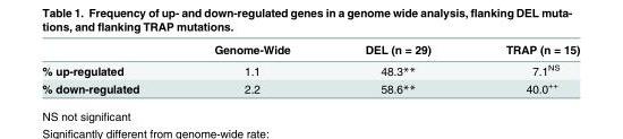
<table><thead><tr><td></td><td>Genome-Wide</td><td>DEL (n = 29)</td><td>TRAP (n = 15)</td></tr></thead><tbody><tr><td>% up-regulated</td><td>1.1</td><td>48.3**</td><td>7.1<sup>NS</sup></td></tr><tr><td>% down-regulated</td><td>2.2</td><td>58.6**</td><td>40.0<sup>++</sup></td></tr></tbody></table>